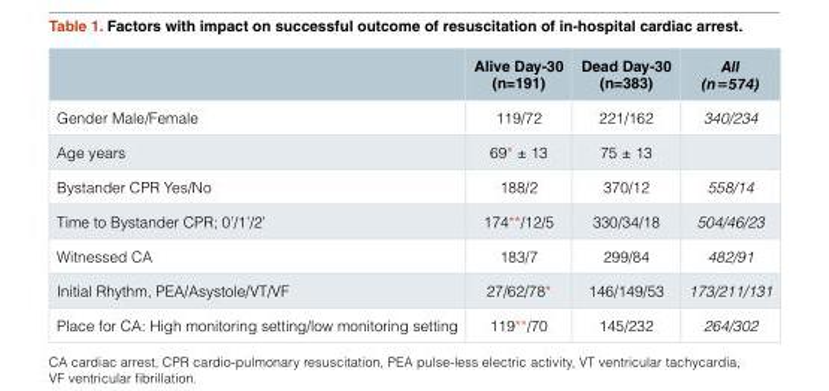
<table><thead><tr><td></td><td>Alive Day-30 (n=191)</td><td>Dead Day-30 (n=383)</td><td>All (n=574)</td></tr></thead><tbody><tr><td>Gender Male/Female</td><td>119/72</td><td>221/162</td><td>340/234</td></tr><tr><td>Age years</td><td>69* ± 13</td><td>75 ± 13</td><td></td></tr><tr><td>Bystander CPR Yes/No</td><td>188/2</td><td>370/12</td><td>558/14</td></tr><tr><td>Time to Bystander CPR; 0’/1’/2’</td><td>174**/12/5</td><td>330/34/18</td><td>504/46/23</td></tr><tr><td>Witnessed CA</td><td>183/7</td><td>299/84</td><td>482/91</td></tr><tr><td>Initial Rhythm, PEA/Asystole/VT/VF</td><td>27/62/78*</td><td>146/149/53</td><td>173/211/131</td></tr><tr><td>Place for CA: High monitoring setting/low monitoring setting</td><td>119**/70</td><td>145/232</td><td>264/302</td></tr></tbody></table>